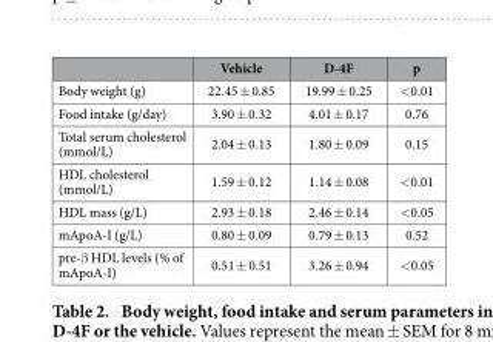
<table><thead><tr><td></td><td>Vehicle</td><td>D-4F</td><td>p</td></tr></thead><tbody><tr><td>Body weight (g)</td><td>22.45 ± 0.85</td><td>19.99 ± 0.25</td><td>&lt; 0.01</td></tr><tr><td>Food intake (g/day)</td><td>3.90 ± 0.32</td><td>4.01 ± 0.17</td><td>0.76</td></tr><tr><td>Total serum cholesterol (mmol/L)</td><td>2.04 ± 0.13</td><td>1.80 ± 0.09</td><td>0.15</td></tr><tr><td>HDL cholesterol (mmol/L)</td><td>1.59 ± 0.12</td><td>1.14 ± 0.08</td><td>&lt; 0.01</td></tr><tr><td>HDL mass (g/L)</td><td>2.93 ± 0.18</td><td>2.46 ± 0.14</td><td>&lt; 0.05</td></tr><tr><td>mApoA-I (g/L)</td><td>0.80 ± 0.09</td><td>0.79 ± 0.13</td><td>0.52</td></tr><tr><td>pre-β HDL levels (% of mApoA-I)</td><td>0.51 ± 0.51</td><td>3.26 ± 0.94</td><td>&lt; 0.05</td></tr></tbody></table>